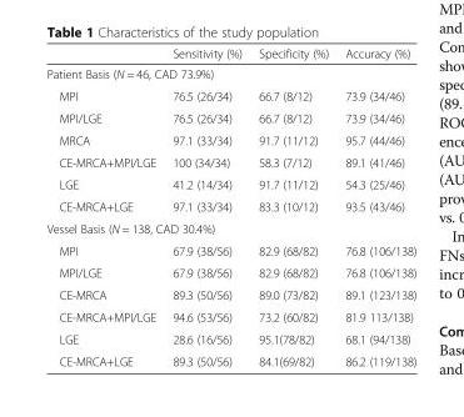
<table><thead><tr><td></td><td>Sensitivity (%)</td><td>Specificity (%)</td><td>Accuracy (%)</td></tr></thead><tbody><tr><td colspan="4">Patient Basis (N = 46, CAD 73.9%)</td></tr><tr><td>MPI</td><td>76.5 (26/34)</td><td>66.7 (8/12)</td><td>73.9 (34/46)</td></tr><tr><td>MPI/LGE</td><td>76.5 (26/34)</td><td>66.7 (8/12)</td><td>73.9 (34/46)</td></tr><tr><td>MRCA</td><td>97.1 (33/34)</td><td>91.7 (11/12)</td><td>95.7 (44/46)</td></tr><tr><td>CE-MRCA+MPI/LGE</td><td>100 (34/34)</td><td>58.3 (7/12)</td><td>89.1 (41/46)</td></tr><tr><td>LGE</td><td>41.2 (14/34)</td><td>91.7 (11/12)</td><td>54.3 (25/46)</td></tr><tr><td>CE-MRCA+LGE</td><td>97.1 (33/34)</td><td>83.3 (10/12)</td><td>93.5 (43/46)</td></tr><tr><td colspan="4">Vessel Basis (N = 138, CAD 30.4%)</td></tr><tr><td>MPI</td><td>67.9 (38/56)</td><td>82.9 (68/82)</td><td>76.8 (106/138)</td></tr><tr><td>MPI/LGE</td><td>67.9 (38/56)</td><td>82.9 (68/82)</td><td>76.8 (106/138)</td></tr><tr><td>CE-MRCA</td><td>89.3 (50/56)</td><td>89.0 (73/82)</td><td>89.1 (123/138)</td></tr><tr><td>CE-MRCA+MPI/LGE</td><td>94.6 (53/56)</td><td>73.2 (60/82)</td><td>81.9 113/138)</td></tr><tr><td>LGE</td><td>28.6 (16/56)</td><td>95.1(78/82)</td><td>68.1 (94/138)</td></tr><tr><td>CE-MRCA+LGE</td><td>89.3 (50/56)</td><td>84.1(69/82)</td><td>86.2 (119/138)</td></tr></tbody></table>